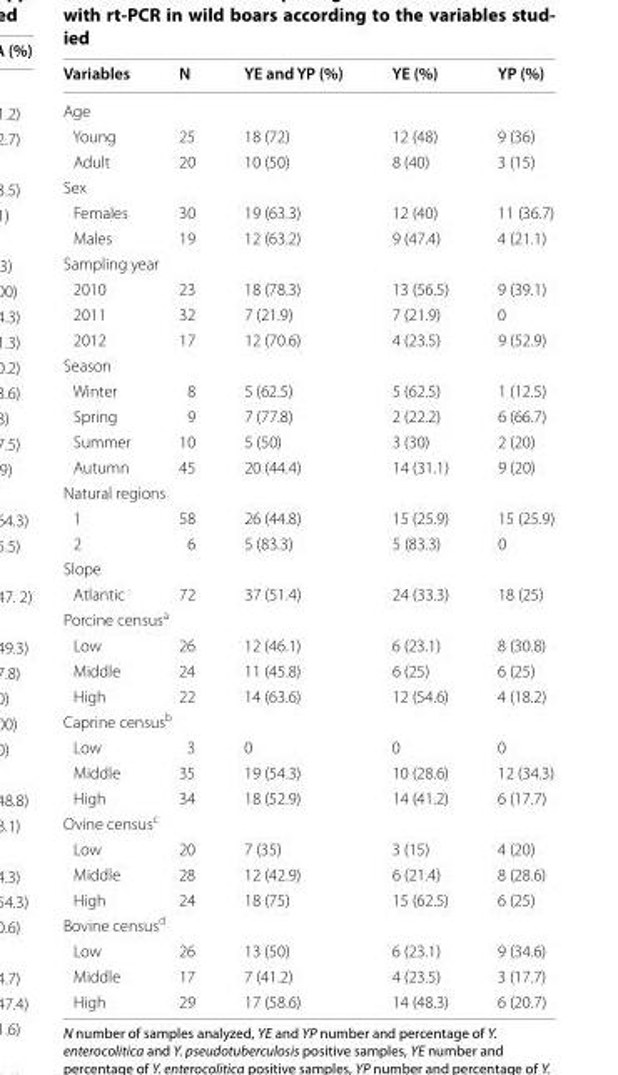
<table><thead><tr><td>Variables</td><td>N</td><td>YE and YP (%)</td><td>YE (%)</td><td>YP (%)</td></tr></thead><tbody><tr><td colspan="5">Age</td></tr><tr><td>Young</td><td>25</td><td>18 (72)</td><td>12 (48)</td><td>9 (36)</td></tr><tr><td>Adult</td><td>20</td><td>10 (50)</td><td>8 (40)</td><td>3 (15)</td></tr><tr><td colspan="5">Sex</td></tr><tr><td>Females</td><td>30</td><td>19 (63.3)</td><td>12 (40)</td><td>11 (36.7)</td></tr><tr><td>Males</td><td>19</td><td>12 (63.2)</td><td>9 (47.4)</td><td>4 (21.1)</td></tr><tr><td colspan="5">Sampling year</td></tr><tr><td>2010</td><td>23</td><td>18 (78.3)</td><td>13 (56.5)</td><td>9 (39.1)</td></tr><tr><td>2011</td><td>32</td><td>7 (21.9)</td><td>7 (21.9)</td><td>0</td></tr><tr><td>2012</td><td>17</td><td>12 (70.6)</td><td>4 (23.5)</td><td>9 (52.9)</td></tr><tr><td colspan="5">Season</td></tr><tr><td>Winter</td><td>8</td><td>5 (62.5)</td><td>5 (62.5)</td><td>1 (12.5)</td></tr><tr><td>Spring</td><td>9</td><td>7 (77.8)</td><td>2 (22.2)</td><td>6 (66.7)</td></tr><tr><td>Summer</td><td>10</td><td>5 (50)</td><td>3 (30)</td><td>2 (20)</td></tr><tr><td>Autumn</td><td>45</td><td>20 (44.4)</td><td>14 (31.1)</td><td>9 (20)</td></tr><tr><td colspan="5">Natural regions</td></tr><tr><td>1</td><td>58</td><td>26 (44.8)</td><td>15 (25.9)</td><td>15 (25.9)</td></tr><tr><td>2</td><td>6</td><td>5 (83.3)</td><td>5 (83.3)</td><td>0</td></tr><tr><td colspan="5">Slope</td></tr><tr><td>Atlantic</td><td>72</td><td>37 (51.4)</td><td>24 (33.3)</td><td>18 (25)</td></tr><tr><td colspan="5">Porcine census<sup>a</sup></td></tr><tr><td>Low</td><td>26</td><td>12 (46.1)</td><td>6 (23.1)</td><td>8 (30.8)</td></tr><tr><td>Middle</td><td>24</td><td>11 (45.8)</td><td>6 (25)</td><td>6 (25)</td></tr><tr><td>High</td><td>22</td><td>14 (63.6)</td><td>12 (54.6)</td><td>4 (18.2)</td></tr><tr><td colspan="5">Caprine census<sup>b</sup></td></tr><tr><td>Low</td><td>3</td><td>0</td><td>0</td><td>0</td></tr><tr><td>Middle</td><td>35</td><td>19 (54.3)</td><td>10 (28.6)</td><td>12 (34.3)</td></tr><tr><td>High</td><td>34</td><td>18 (52.9)</td><td>14 (41.2)</td><td>6 (17.7)</td></tr><tr><td colspan="5">Ovine census<sup>c</sup></td></tr><tr><td>Low</td><td>20</td><td>7 (35)</td><td>3 (15)</td><td>4 (20)</td></tr><tr><td>Middle</td><td>28</td><td>12 (42.9)</td><td>6 (21.4)</td><td>8 (28.6)</td></tr><tr><td>High</td><td>24</td><td>18 (75)</td><td>15 (62.5)</td><td>6 (25)</td></tr><tr><td colspan="5">Bovine census<sup>d</sup></td></tr><tr><td>Low</td><td>26</td><td>13 (50)</td><td>6 (23.1)</td><td>9 (34.6)</td></tr><tr><td>Middle</td><td>17</td><td>7 (41.2)</td><td>4 (23.5)</td><td>3 (17.7)</td></tr><tr><td>High</td><td>29</td><td>17 (58.6)</td><td>14 (48.3)</td><td>6 (20.7)</td></tr></tbody></table>